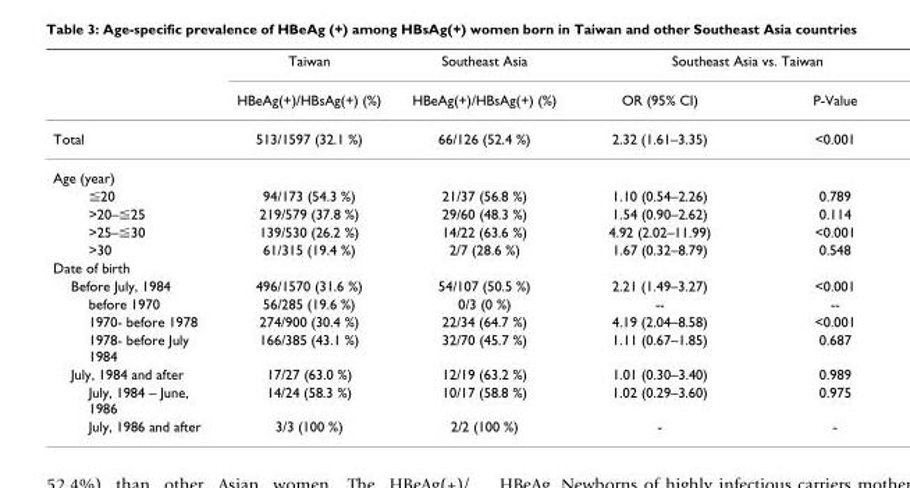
<table><thead><tr><td rowspan="2"></td><td rowspan="2">Taiwan HBeAg(+)/HBsAg(+) (%)</td><td rowspan="2">Southeast Asia HBeAg(+)/HBsAg(+) (%)</td><td colspan="2">Southeast Asia vs. Taiwan</td></tr><tr><td>OR (95% CI)</td><td>P-Value</td></tr></thead><tbody><tr><td>Total</td><td>513/1597 (32.1 %)</td><td>66/126 (52.4 %)</td><td>2.32 (1.61–3.35)</td><td>&lt;0.001</td></tr><tr><td colspan="5">Age (year)</td></tr><tr><td>≦20</td><td>94/173 (54.3 %)</td><td>21/37 (56.8 %)</td><td>1.10 (0.54–2.26)</td><td>0.789</td></tr><tr><td>&gt;20–≦25</td><td>219/579 (37.8 %)</td><td>29/60 (48.3 %)</td><td>1.54 (0.90–2.62)</td><td>0.114</td></tr><tr><td>&gt;25–≦30</td><td>139/530 (26.2 %)</td><td>14/22 (63.6 %)</td><td>4.92 (2.02–11.99)</td><td>&lt;0.001</td></tr><tr><td>&gt;30</td><td>61/315 (19.4 %)</td><td>2/7 (28.6 %)</td><td>1.67 (0.32–8.79)</td><td>0.548</td></tr><tr><td colspan="5">Date of birth</td></tr><tr><td>Before July, 1984</td><td>496/1570 (31.6 %)</td><td>54/107 (50.5 %)</td><td>2.21 (1.49–3.27)</td><td>&lt;0.001</td></tr><tr><td>before 1970</td><td>56/285 (19.6 %)</td><td>0/3 (0 %)</td><td>--</td><td>--</td></tr><tr><td>1970- before 1978</td><td>274/900 (30.4 %)</td><td>22/34 (64.7 %)</td><td>4.19 (2.04–8.58)</td><td>&lt;0.001</td></tr><tr><td>1978- before July 1984</td><td>166/385 (43.1 %)</td><td>32/70 (45.7 %)</td><td>1.11 (0.67–1.85)</td><td>0.687</td></tr><tr><td>July, 1984 and after</td><td>17/27 (63.0 %)</td><td>12/19 (63.2 %)</td><td>1.01 (0.30–3.40)</td><td>0.989</td></tr><tr><td>July, 1984 – June, 1986</td><td>14/24 (58.3 %)</td><td>10/17 (58.8 %)</td><td>1.02 (0.29–3.60)</td><td>0.975</td></tr><tr><td>July, 1986 and after</td><td>3/3 (100 %)</td><td>2/2 (100 %)</td><td>-</td><td>-</td></tr></tbody></table>